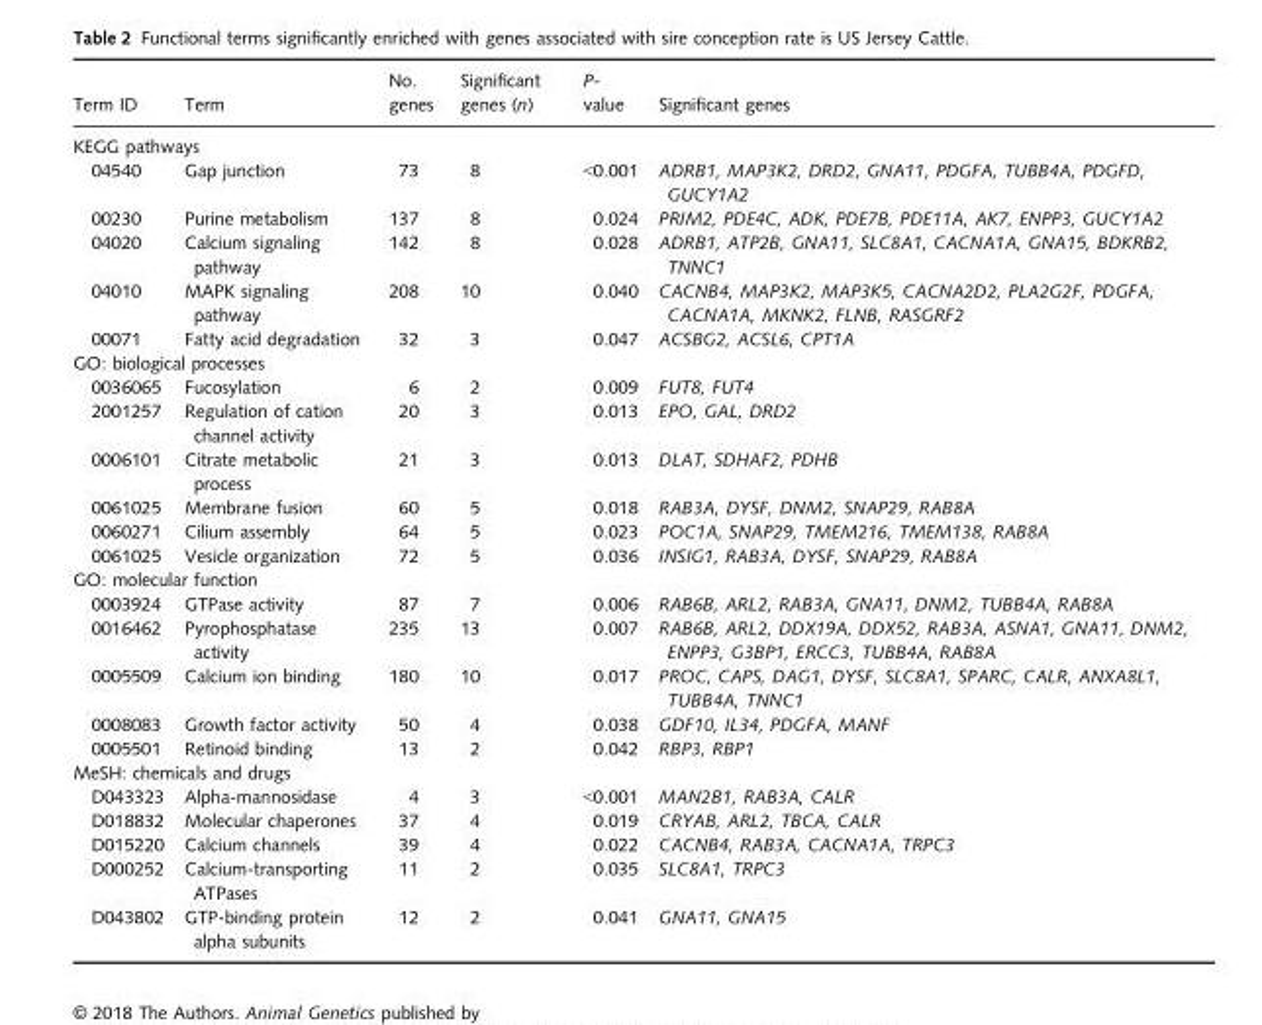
<table><thead><tr><td>Term ID</td><td>Term</td><td>No. genes</td><td>Significant genes (n)</td><td>P- value</td><td>Significant genes</td></tr></thead><tbody><tr><td colspan="6">KEGG pathways</td></tr><tr><td>04540</td><td>Gap junction</td><td>73</td><td>8</td><td>&lt;0.001</td><td>ADRB1, MAP3K2, DRD2, GNA11, PDGFA, TUBB4A, PDGFD, GUCY1A2</td></tr><tr><td>00230</td><td>Purine metabolism</td><td>137</td><td>8</td><td>0.024</td><td>PRIM2, PDE4C, ADK, PDE7B, PDE11A, AK7, ENPP3, GUCY1A2</td></tr><tr><td>04020</td><td>Calcium signaling pathway</td><td>142</td><td>8</td><td>0.028</td><td>ADRB1, ATP2B, GNA11, SLC8A1, CACNA1A, GNA15, BDKRB2, TNNC1</td></tr><tr><td>04010</td><td>MAPK signaling pathway</td><td>208</td><td>10</td><td>0.040</td><td>CACNB4, MAP3K2, MAP3K5, CACNA2D2, PLA2G2F, PDGFA, CACNA1A, MKNK2, FLNB, RASGRF2</td></tr><tr><td>00071</td><td>Fatty acid degradation</td><td>32</td><td>3</td><td>0.047</td><td>ACSBG2, ACSL6, CPT1A</td></tr><tr><td colspan="6">GO: biological processes</td></tr><tr><td>0036065</td><td>Fucosylation</td><td>6</td><td>2</td><td>0.009</td><td>FUT8, FUT4</td></tr><tr><td>2001257</td><td>Regulation of cation channel activity</td><td>20</td><td>3</td><td>0.013</td><td>EPO, GAL, DRD2</td></tr><tr><td>0006101</td><td>Citrate metabolic process</td><td>21</td><td>3</td><td>0.013</td><td>DLAT, SDHAF2, PDHB</td></tr><tr><td>0061025</td><td>Membrane fusion</td><td>60</td><td>5</td><td>0.018</td><td>RAB3A, DYSF, DNM2, SNAP29, RAB8A</td></tr><tr><td>0060271</td><td>Cilium assembly</td><td>64</td><td>5</td><td>0.023</td><td>POC1A, SNAP29, TMEM216, TMEM138, RAB8A</td></tr><tr><td>0061025</td><td>Vesicle organization</td><td>72</td><td>5</td><td>0.036</td><td>INSIG1, RAB3A, DYSF, SNAP29, RAB8A</td></tr><tr><td colspan="6">GO: molecular function</td></tr><tr><td>0003924</td><td>GTPase activity</td><td>87</td><td>7</td><td>0.006</td><td>RAB6B, ARL2, RAB3A, GNA11, DNM2, TUBB4A, RAB8A</td></tr><tr><td>0016462</td><td>Pyrophosphatase activity</td><td>235</td><td>13</td><td>0.007</td><td>RAB6B, ARL2, DDX19A, DDX52, RAB3A, ASNA1, GNA11, DNM2, ENPP3, G3BP1, ERCC3, TUBB4A, RAB8A</td></tr><tr><td>0005509</td><td>Calcium ion binding</td><td>180</td><td>10</td><td>0.017</td><td>PROC, CAPS, DAG1, DYSF, SLC8A1, SPARC, CALR, ANXA8L1, TUBB4A, TNNC1</td></tr><tr><td>0008083</td><td>Growth factor activity</td><td>50</td><td>4</td><td>0.038</td><td>GDF10, IL34, PDGFA, MANF</td></tr><tr><td>0005501</td><td>Retinoid binding</td><td>13</td><td>2</td><td>0.042</td><td>RBP3, RBP1</td></tr><tr><td colspan="6">MeSH: chemicals and drugs</td></tr><tr><td>D043323</td><td>Alpha-mannosidase</td><td>4</td><td>3</td><td>&lt;0.001</td><td>MAN2B1, RAB3A, CALR</td></tr><tr><td>D018832</td><td>Molecular chaperones</td><td>37</td><td>4</td><td>0.019</td><td>CRYAB, ARL2, TBCA, CALR</td></tr><tr><td>D015220</td><td>Calcium channels</td><td>39</td><td>4</td><td>0.022</td><td>CACNB4, RAB3A, CACNA1A, TRPC3</td></tr><tr><td>D000252</td><td>Calcium-transporting ATPases</td><td>11</td><td>2</td><td>0.035</td><td>SLC8A1, TRPC3</td></tr><tr><td>D043802</td><td>GTP-binding protein alpha subunits</td><td>12</td><td>2</td><td>0.041</td><td>GNA11, GNA15</td></tr></tbody></table>